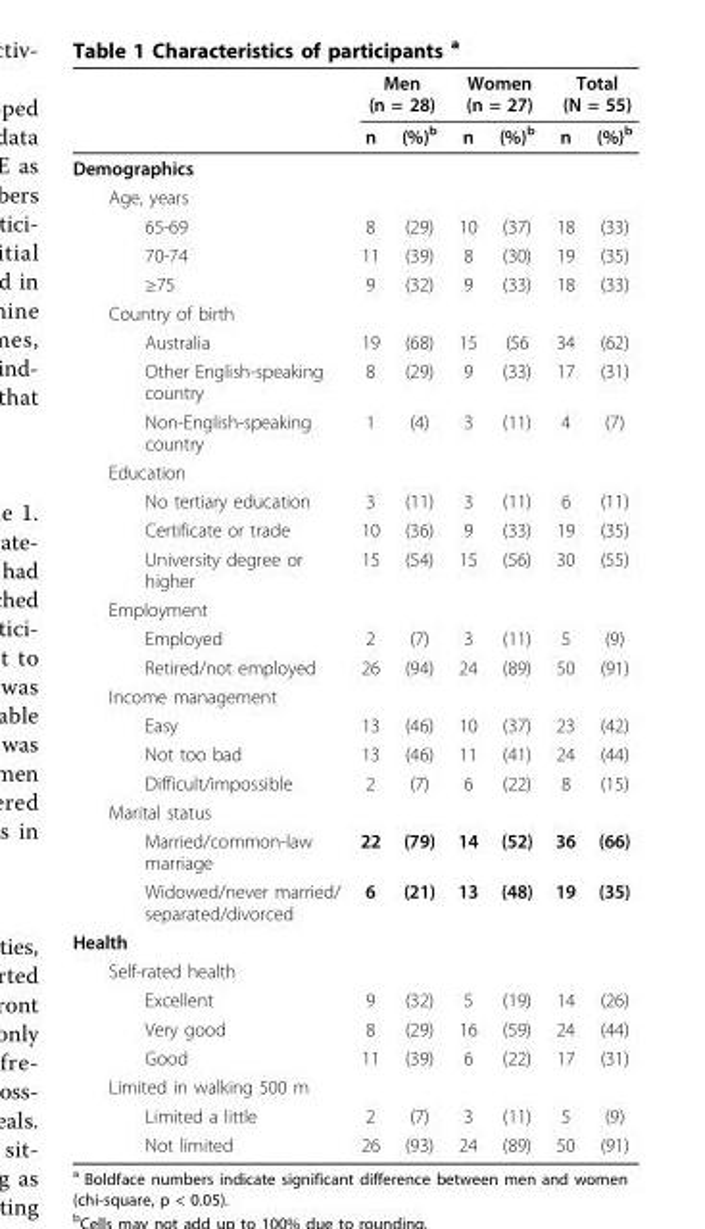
<table><thead><tr><td rowspan="2"></td><td colspan="2">Men (n = 28)</td><td colspan="2">Women (n = 27)</td><td colspan="2">Total (N = 55)</td></tr><tr><td>n</td><td>(%)<sup>b</sup></td><td>n</td><td>(%)<sup>b</sup></td><td>n</td><td>(%)<sup>b</sup></td></tr></thead><tbody><tr><td colspan="7">Demographics</td></tr><tr><td colspan="7">Age, years</td></tr><tr><td>65-69</td><td>8</td><td>(29)</td><td>10</td><td>(37)</td><td>18</td><td>(33)</td></tr><tr><td>70-74</td><td>11</td><td>(39)</td><td>8</td><td>(30)</td><td>19</td><td>(35)</td></tr><tr><td>≥75</td><td>9</td><td>(32)</td><td>9</td><td>(33)</td><td>18</td><td>(33)</td></tr><tr><td colspan="7">Country of birth</td></tr><tr><td>Australia</td><td>19</td><td>(68)</td><td>15</td><td>(56</td><td>34</td><td>(62)</td></tr><tr><td>Other English-speaking country</td><td>8</td><td>(29)</td><td>9</td><td>(33)</td><td>17</td><td>(31)</td></tr><tr><td>Non-English-speaking country</td><td>1</td><td>(4)</td><td>3</td><td>(11)</td><td>4</td><td>(7)</td></tr><tr><td colspan="7">Education</td></tr><tr><td>No tertiary education</td><td>3</td><td>(11)</td><td>3</td><td>(11)</td><td>6</td><td>(11)</td></tr><tr><td>Certificate or trade</td><td>10</td><td>(36)</td><td>9</td><td>(33)</td><td>19</td><td>(35)</td></tr><tr><td>University degree or higher</td><td>15</td><td>(54)</td><td>15</td><td>(56)</td><td>30</td><td>(55)</td></tr><tr><td colspan="7">Employment</td></tr><tr><td>Employed</td><td>2</td><td>(7)</td><td>3</td><td>(11)</td><td>5</td><td>(9)</td></tr><tr><td>Retired/not employed</td><td>26</td><td>(94)</td><td>24</td><td>(89)</td><td>50</td><td>(91)</td></tr><tr><td colspan="7">Income management</td></tr><tr><td>Easy</td><td>13</td><td>(46)</td><td>10</td><td>(37)</td><td>23</td><td>(42)</td></tr><tr><td>Not too bad</td><td>13</td><td>(46)</td><td>11</td><td>(41)</td><td>24</td><td>(44)</td></tr><tr><td>Difficult/impossible</td><td>2</td><td>(7)</td><td>6</td><td>(22)</td><td>8</td><td>(15)</td></tr><tr><td colspan="7">Marital status</td></tr><tr><td>Married/common-law marriage</td><td>22</td><td>(79)</td><td>14</td><td>(52)</td><td>36</td><td>(66)</td></tr><tr><td>Widowed/never married/ separated/divorced</td><td>6</td><td>(21)</td><td>13</td><td>(48)</td><td>19</td><td>(35)</td></tr><tr><td colspan="7">Health</td></tr><tr><td colspan="7">Self-rated health</td></tr><tr><td>Excellent</td><td>9</td><td>(32)</td><td>5</td><td>(19)</td><td>14</td><td>(26)</td></tr><tr><td>Very good</td><td>8</td><td>(29)</td><td>16</td><td>(59)</td><td>24</td><td>(44)</td></tr><tr><td>Good</td><td>11</td><td>(39)</td><td>6</td><td>(22)</td><td>17</td><td>(31)</td></tr><tr><td colspan="7">Limited in walking 500 m</td></tr><tr><td>Limited a little</td><td>2</td><td>(7)</td><td>3</td><td>(11)</td><td>5</td><td>(9)</td></tr><tr><td>Not limited</td><td>26</td><td>(93)</td><td>24</td><td>(89)</td><td>50</td><td>(91)</td></tr></tbody></table>